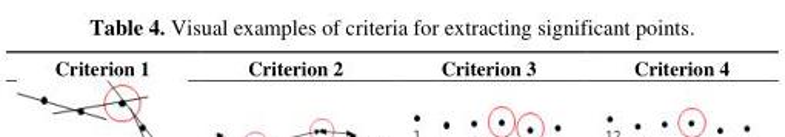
<table><thead><tr><td>Criterion 1</td><td>Criterion 2</td><td>Criterion 3</td><td>Criterion 4</td></tr></thead><tbody></tbody></table>